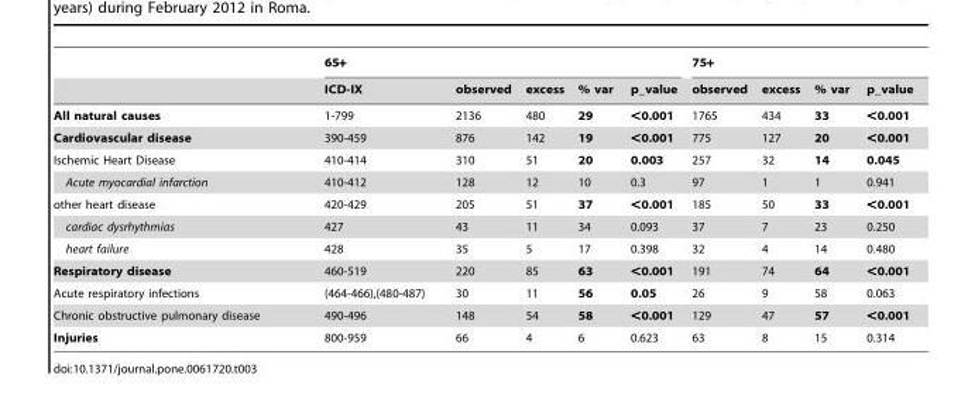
<table><thead><tr><td rowspan="2"></td><td colspan="5">65+</td><td colspan="4">75+</td></tr><tr><td>ICD-IX</td><td>observed</td><td>excess</td><td>% var</td><td>p_value</td><td>observed</td><td>excess</td><td>% var</td><td>p_value</td></tr></thead><tbody><tr><td>All natural causes</td><td>1-799</td><td>2136</td><td>480</td><td>29</td><td>&lt;0.001</td><td>1765</td><td>434</td><td>33</td><td>&lt;0.001</td></tr><tr><td>Cardiovascular disease</td><td>390-459</td><td>876</td><td>142</td><td>19</td><td>&lt;0.001</td><td>775</td><td>127</td><td>20</td><td>&lt;0.001</td></tr><tr><td>Ischemic Heart Disease</td><td>410-414</td><td>310</td><td>51</td><td>20</td><td>0.003</td><td>257</td><td>32</td><td>14</td><td>0.045</td></tr><tr><td>Acute myocardial infarction</td><td>410-412</td><td>128</td><td>12</td><td>10</td><td>0.3</td><td>97</td><td>1</td><td>1</td><td>0.941</td></tr><tr><td>other heart disease</td><td>420-429</td><td>205</td><td>51</td><td>37</td><td>&lt;0.001</td><td>185</td><td>50</td><td>33</td><td>&lt;0.001</td></tr><tr><td>cardiac dysrhythmias</td><td>427</td><td>43</td><td>11</td><td>34</td><td>0.093</td><td>37</td><td>7</td><td>23</td><td>0.250</td></tr><tr><td>heart failure</td><td>428</td><td>35</td><td>5</td><td>17</td><td>0.398</td><td>32</td><td>4</td><td>14</td><td>0.480</td></tr><tr><td>Respiratory disease</td><td>460-519</td><td>220</td><td>85</td><td>63</td><td>&lt;0.001</td><td>191</td><td>74</td><td>64</td><td>&lt;0.001</td></tr><tr><td>Acute respiratory infections</td><td>(464-466),(480-487)</td><td>30</td><td>11</td><td>56</td><td>0.05</td><td>26</td><td>9</td><td>58</td><td>0.063</td></tr><tr><td>Chronic obstructive pulmonary disease</td><td>490-496</td><td>148</td><td>54</td><td>58</td><td>&lt;0.001</td><td>129</td><td>47</td><td>57</td><td>&lt;0.001</td></tr><tr><td>Injuries</td><td>800-959</td><td>66</td><td>4</td><td>6</td><td>0.623</td><td>63</td><td>8</td><td>15</td><td>0.314</td></tr></tbody></table>